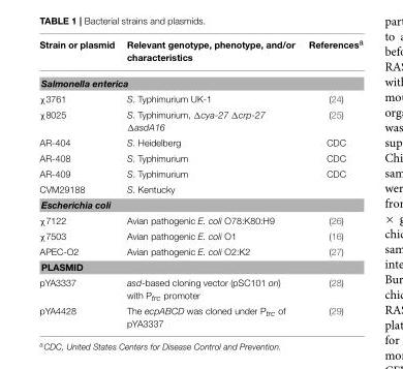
<table><thead><tr><td>Strain or plasmid</td><td>Relevant genotype, phenotype, and/or characteristics</td><td>References<sup>a</sup></td></tr></thead><tbody><tr><td colspan="3">Salmonella enterica</td></tr><tr><td>χ3761</td><td>S. Typhimurium UK-1</td><td>(24)</td></tr><tr><td>χ8025</td><td>S. Typhimurium, Δcya-27 Δcrp-27 ΔasdA16</td><td>(25)</td></tr><tr><td>AR-404</td><td>S. Heidelberg</td><td>CDC</td></tr><tr><td>AR-408</td><td>S. Typhimurium</td><td>CDC</td></tr><tr><td>AR-409</td><td>S. Typhimurium</td><td>CDC</td></tr><tr><td>CVM29188</td><td>S. Kentucky</td><td></td></tr><tr><td colspan="3">Escherichia coli</td></tr><tr><td>χ7122</td><td>Avian pathogenic E. coli O78:K80:H9</td><td>(26)</td></tr><tr><td>χ7503</td><td>Avian pathogenic E. coli O1</td><td>(16)</td></tr><tr><td>APEC-O2</td><td>Avian pathogenic E. coli O2:K2</td><td>(27)</td></tr><tr><td colspan="3">PLASMID</td></tr><tr><td>pYA3337</td><td>asd-based cloning vector (pSC101 ori) with Ptrc promoter</td><td>(28)</td></tr><tr><td>pYA4428</td><td>The ecpABCD was cloned under Ptrc of pYA3337</td><td>(29)</td></tr></tbody></table>